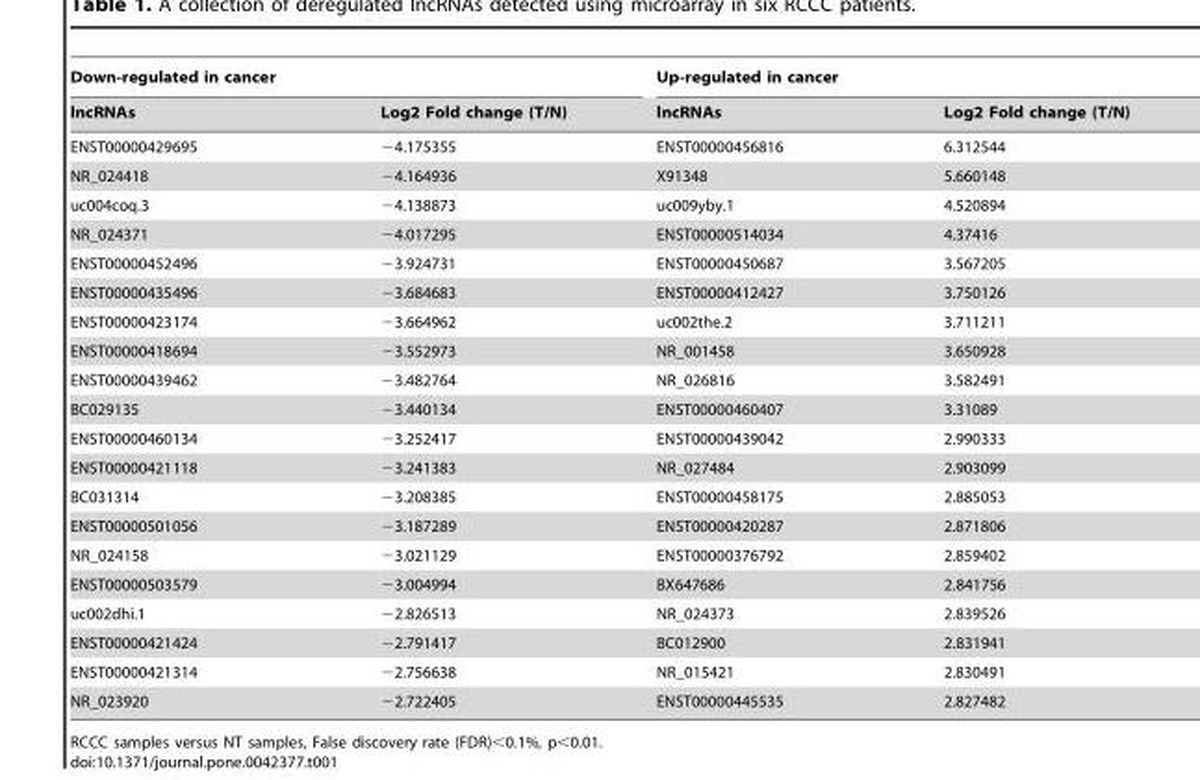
<table><thead><tr><td colspan="2">Down-regulated in cancer</td><td colspan="2">Up-regulated in cancer</td></tr><tr><td>lncRNAs</td><td>Log2 Fold change (T/N)</td><td>lncRNAs</td><td>Log2 Fold change (T/N)</td></tr></thead><tbody><tr><td>ENST00000429695</td><td>−4.175355</td><td>ENST00000456816</td><td>6.312544</td></tr><tr><td>NR_024418</td><td>−4.164936</td><td>X91348</td><td>5.660148</td></tr><tr><td>uc004coq.3</td><td>−4.138873</td><td>uc009yby.1</td><td>4.520894</td></tr><tr><td>NR_024371</td><td>−4.017295</td><td>ENST00000514034</td><td>4.37416</td></tr><tr><td>ENST00000452496</td><td>−3.924731</td><td>ENST00000450687</td><td>3.567205</td></tr><tr><td>ENST00000435496</td><td>−3.684683</td><td>ENST00000412427</td><td>3.750126</td></tr><tr><td>ENST00000423174</td><td>−3.664962</td><td>uc002the.2</td><td>3.711211</td></tr><tr><td>ENST00000418694</td><td>−3.552973</td><td>NR_001458</td><td>3.650928</td></tr><tr><td>ENST00000439462</td><td>−3.482764</td><td>NR_026816</td><td>3.582491</td></tr><tr><td>BC029135</td><td>−3.440134</td><td>ENST00000460407</td><td>3.31089</td></tr><tr><td>ENST00000460134</td><td>−3.252417</td><td>ENST00000439042</td><td>2.990333</td></tr><tr><td>ENST00000421118</td><td>−3.241383</td><td>NR_027484</td><td>2.903099</td></tr><tr><td>BC031314</td><td>−3.208385</td><td>ENST00000458175</td><td>2.885053</td></tr><tr><td>ENST00000501056</td><td>−3.187289</td><td>ENST00000420287</td><td>2.871806</td></tr><tr><td>NR_024158</td><td>−3.021129</td><td>ENST00000376792</td><td>2.859402</td></tr><tr><td>ENST00000503579</td><td>−3.004994</td><td>BX647686</td><td>2.841756</td></tr><tr><td>uc002dhi.1</td><td>−2.826513</td><td>NR_024373</td><td>2.839526</td></tr><tr><td>ENST00000421424</td><td>−2.791417</td><td>BC012900</td><td>2.831941</td></tr><tr><td>ENST00000421314</td><td>−2.756638</td><td>NR_015421</td><td>2.830491</td></tr><tr><td>NR_023920</td><td>−2.722405</td><td>ENST00000445535</td><td>2.827482</td></tr></tbody></table>